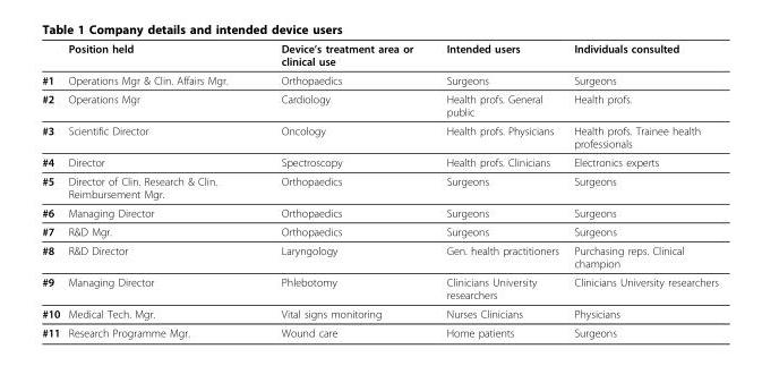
<table><thead><tr><td></td><td>Position held</td><td>Device’s treatment area or clinical use</td><td>Intended users</td><td>Individuals consulted</td></tr></thead><tbody><tr><td>#1</td><td>Operations Mgr &amp; Clin. Affairs Mgr.</td><td>Orthopaedics</td><td>Surgeons</td><td>Surgeons</td></tr><tr><td>#2</td><td>Operations Mgr</td><td>Cardiology</td><td>Health profs. General public</td><td>Health profs.</td></tr><tr><td>#3</td><td>Scientific Director</td><td>Oncology</td><td>Health profs. Physicians</td><td>Health profs. Trainee health professionals</td></tr><tr><td>#4</td><td>Director</td><td>Spectroscopy</td><td>Health profs. Clinicians</td><td>Electronics experts</td></tr><tr><td>#5</td><td>Director of Clin. Research &amp; Clin. Reimbursement Mgr.</td><td>Orthopaedics</td><td>Surgeons</td><td>Surgeons</td></tr><tr><td>#6</td><td>Managing Director</td><td>Orthopaedics</td><td>Surgeons</td><td>Surgeons</td></tr><tr><td>#7</td><td>R&amp;D Mgr.</td><td>Orthopaedics</td><td>Surgeons</td><td>Surgeons</td></tr><tr><td>#8</td><td>R&amp;D Director</td><td>Laryngology</td><td>Gen. health practitioners</td><td>Purchasing reps. Clinical champion</td></tr><tr><td>#9</td><td>Managing Director</td><td>Phlebotomy</td><td>Clinicians University researchers</td><td>Clinicians University researchers</td></tr><tr><td>#10</td><td>Medical Tech. Mgr.</td><td>Vital signs monitoring</td><td>Nurses Clinicians</td><td>Physicians</td></tr><tr><td>#11</td><td>Research Programme Mgr.</td><td>Wound care</td><td>Home patients</td><td>Surgeons</td></tr></tbody></table>